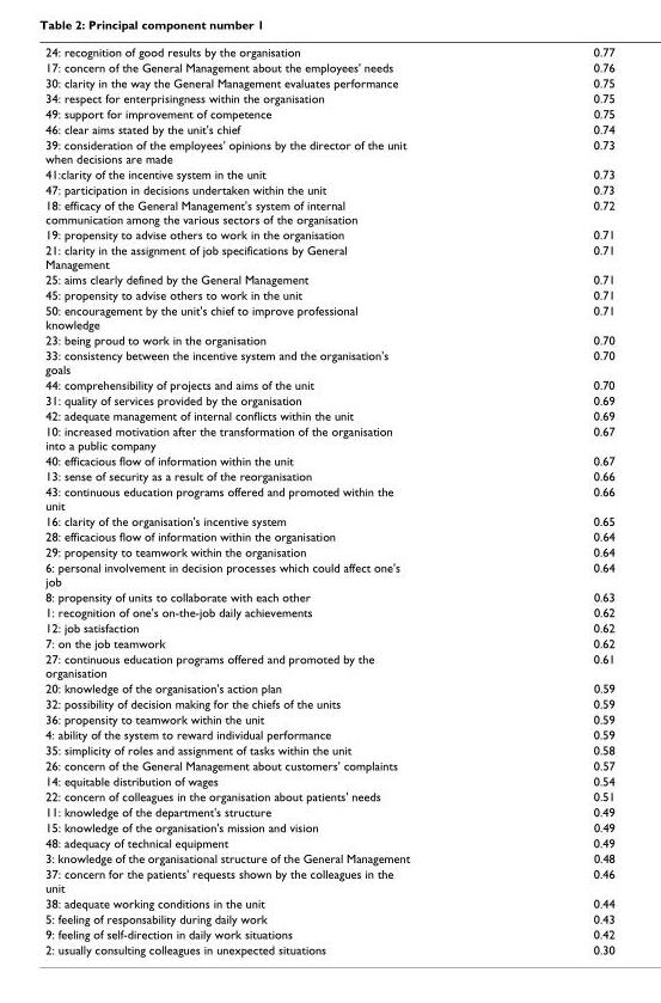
<table><tbody><tr><td>24: recognition of good results by the organisation</td><td>0.77</td></tr><tr><td>17: concern of the General Management about the employees&#x27; needs</td><td>0.76</td></tr><tr><td>30: clarity in the way the General Management evaluates performance</td><td>0.75</td></tr><tr><td>34: respect for enterprisingness within the organisation</td><td>0.75</td></tr><tr><td>49: support for improvement of competence</td><td>0.75</td></tr><tr><td>46: clear aims stated by the unit&#x27;s chief</td><td>0.74</td></tr><tr><td>39: consideration of the employees&#x27; opinions by the director of the unit when decisions are made</td><td>0.73</td></tr><tr><td>41:clarity of the incentive system in the unit</td><td>0.73</td></tr><tr><td>47: participation in decisions undertaken within the unit</td><td>0.73</td></tr><tr><td>18: efficacy of the General Management&#x27;s system of internal communication among the various sectors of the organisation</td><td>0.72</td></tr><tr><td>19: propensity to advise others to work in the organisation</td><td>0.71</td></tr><tr><td>21: clarity in the assignment of job specifications by General Management</td><td>0.71</td></tr><tr><td>25: aims clearly defined by the General Management</td><td>0.71</td></tr><tr><td>45: propensity to advise others to work in the unit</td><td>0.71</td></tr><tr><td>50: encouragement by the unit&#x27;s chief to improve professional knowledge</td><td>0.71</td></tr><tr><td>23: being proud to work in the organisation</td><td>0.70</td></tr><tr><td>33: consistency between the incentive system and the organisation&#x27;s goals</td><td>0.70</td></tr><tr><td>44: comprehensibility of projects and aims of the unit</td><td>0.70</td></tr><tr><td>31: quality of services provided by the organisation</td><td>0.69</td></tr><tr><td>42: adequate management of internal conflicts within the unit</td><td>0.69</td></tr><tr><td>10: increased motivation after the transformation of the organisation into a public company</td><td>0.67</td></tr><tr><td>40: efficacious flow of information within the unit</td><td>0.67</td></tr><tr><td>13: sense of security as a result of the reorganisation</td><td>0.66</td></tr><tr><td>43: continuous education programs offered and promoted within the unit</td><td>0.66</td></tr><tr><td>16: clarity of the organisation&#x27;s incentive system</td><td>0.65</td></tr><tr><td>28: efficacious flow of information within the organisation</td><td>0.64</td></tr><tr><td>29: propensity to teamwork within the organisation</td><td>0.64</td></tr><tr><td>6: personal involvement in decision processes which could affect one&#x27;s job</td><td>0.64</td></tr><tr><td>8: propensity of units to collaborate with each other</td><td>0.63</td></tr><tr><td>1: recognition of one&#x27;s on-the-job daily achievements</td><td>0.62</td></tr><tr><td>12: job satisfaction</td><td>0.62</td></tr><tr><td>7: on the job teamwork</td><td>0.62</td></tr><tr><td>27: continuous education programs offered and promoted by the organisation</td><td>0.61</td></tr><tr><td>20: knowledge of the organisation&#x27;s action plan</td><td>0.59</td></tr><tr><td>32: possibility of decision making for the chiefs of the units</td><td>0.59</td></tr><tr><td>36: propensity to teamwork within the unit</td><td>0.59</td></tr><tr><td>4: ability of the system to reward individual performance</td><td>0.59</td></tr><tr><td>35: simplicity of roles and assignment of tasks within the unit</td><td>0.58</td></tr><tr><td>26: concern of the General Management about customers&#x27; complaints</td><td>0.57</td></tr><tr><td>14: equitable distribution of wages</td><td>0.54</td></tr><tr><td>22: concern of colleagues in the organisation about patients&#x27; needs</td><td>0.51</td></tr><tr><td>11: knowledge of the department&#x27;s structure</td><td>0.49</td></tr><tr><td>15: knowledge of the organisation&#x27;s mission and vision</td><td>0.49</td></tr><tr><td>48: adequacy of technical equipment</td><td>0.49</td></tr><tr><td>3: knowledge of the organisational structure of the General Management</td><td>0.48</td></tr><tr><td>37: concern for the patients&#x27; requests shown by the colleagues in the unit</td><td>0.46</td></tr><tr><td>38: adequate working conditions in the unit</td><td>0.44</td></tr><tr><td>5: feeling of responsability during daily work</td><td>0.43</td></tr><tr><td>9: feeling of self-direction in daily work situations</td><td>0.42</td></tr><tr><td>2: usually consulting colleagues in unexpected situations</td><td>0.30</td></tr></tbody></table>